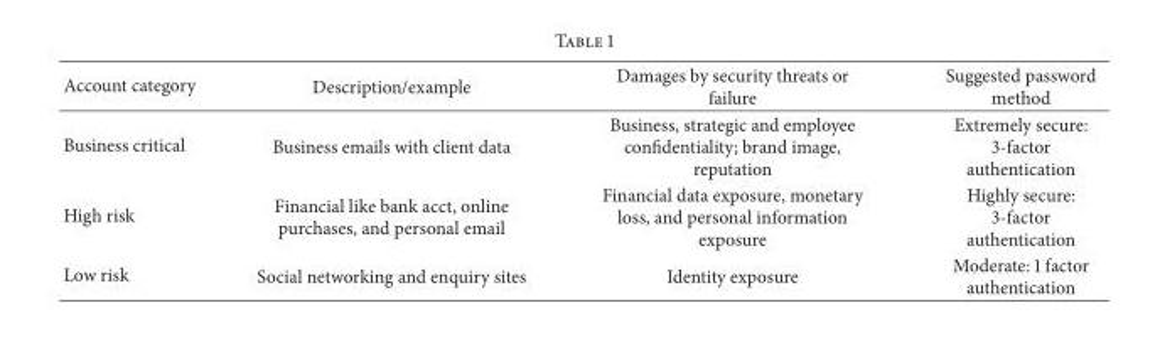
<table><thead><tr><td>Account category</td><td>Description/example</td><td>Damages by security threats or failure</td><td>Suggested password method</td></tr></thead><tbody><tr><td>Business critical</td><td>Business emails with client data</td><td>Business, strategic and employee confidentiality; brand image, reputation</td><td>Extremely secure: 3-factor authentication</td></tr><tr><td>High risk</td><td>Financial like bank acct, online purchases, and personal email</td><td>Financial data exposure, monetary loss, and personal information exposure</td><td>Highly secure: 3-factor authentication</td></tr><tr><td>Low risk</td><td>Social networking and enquiry sites</td><td>Identity exposure</td><td>Moderate: 1 factor authentication</td></tr></tbody></table>